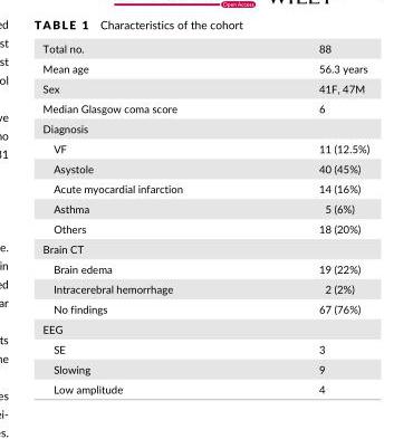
<table><tbody><tr><td>Total no.</td><td>88</td></tr><tr><td>Mean age</td><td>56.3 years</td></tr><tr><td>Sex</td><td>41F, 47M</td></tr><tr><td>Median Glasgow coma score</td><td>6</td></tr><tr><td colspan="2">Diagnosis</td></tr><tr><td>VF</td><td>11 (12.5%)</td></tr><tr><td>Asystole</td><td>40 (45%)</td></tr><tr><td>Acute myocardial infarction</td><td>14 (16%)</td></tr><tr><td>Asthma</td><td>5 (6%)</td></tr><tr><td>Others</td><td>18 (20%)</td></tr><tr><td colspan="2">Brain CT</td></tr><tr><td>Brain edema</td><td>19 (22%)</td></tr><tr><td>Intracerebral hemorrhage</td><td>2 (2%)</td></tr><tr><td>No findings</td><td>67 (76%)</td></tr><tr><td colspan="2">EEG</td></tr><tr><td>SE</td><td>3</td></tr><tr><td>Slowing</td><td>9</td></tr><tr><td>Low amplitude</td><td>4</td></tr></tbody></table>